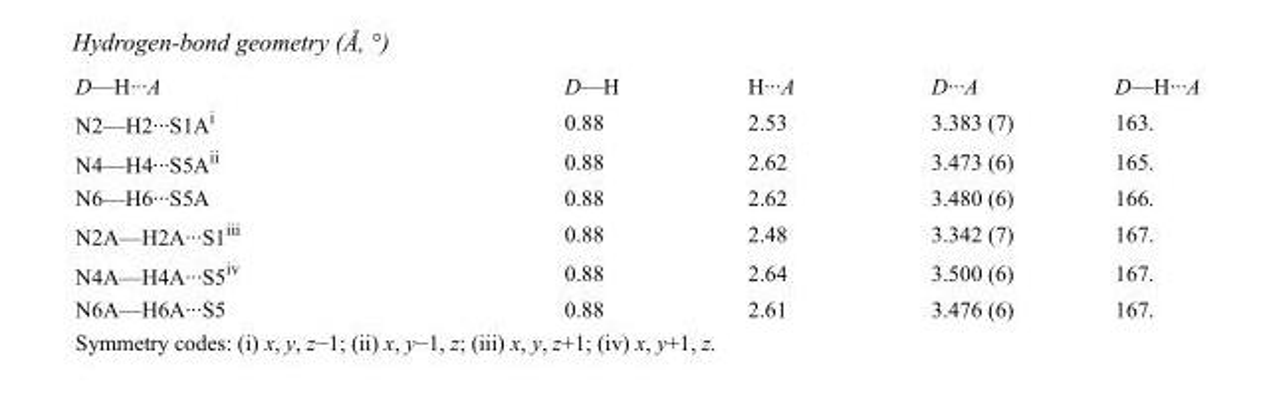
<table><tbody><tr><td>D—H···A</td><td>D—H</td><td>H···A</td><td>D···A</td><td>D—H···A</td></tr><tr><td>N2—H2···S1A<sup>i</sup></td><td>0.88</td><td>2.53</td><td>3.383 (7)</td><td>163.</td></tr><tr><td>N4—H4···S5A<sup>ii</sup></td><td>0.88</td><td>2.62</td><td>3.473 (6)</td><td>165.</td></tr><tr><td>N6—H6···S5A</td><td>0.88</td><td>2.62</td><td>3.480 (6)</td><td>166.</td></tr><tr><td>N2A—H2A···S1<sup>iii</sup></td><td>0.88</td><td>2.48</td><td>3.342 (7)</td><td>167.</td></tr><tr><td>N4A—H4A···S5<sup>iv</sup></td><td>0.88</td><td>2.64</td><td>3.500 (6)</td><td>167.</td></tr><tr><td>N6A—H6A···S5</td><td>0.88</td><td>2.61</td><td>3.476 (6)</td><td>167.</td></tr></tbody></table>